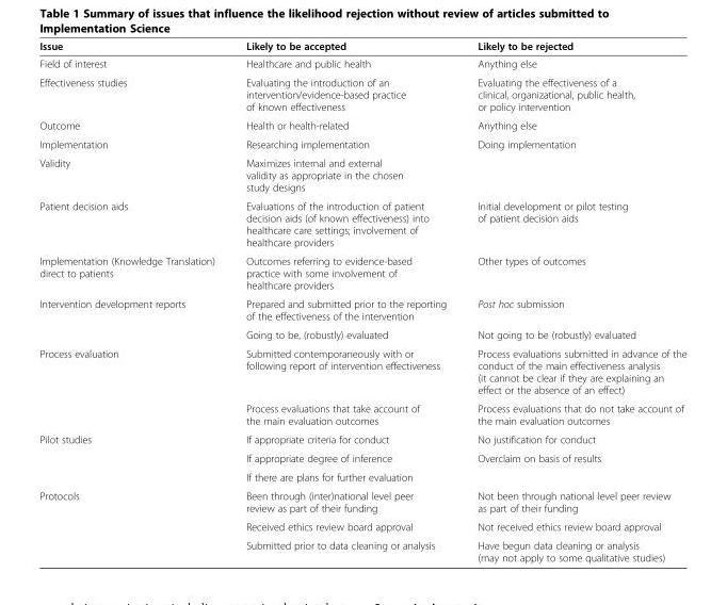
<table><thead><tr><td>Issue</td><td>Likely to be accepted</td><td>Likely to be rejected</td></tr></thead><tbody><tr><td>Field of interest</td><td>Healthcare and public health</td><td>Anything else</td></tr><tr><td>Effectiveness studies</td><td>Evaluating the introduction of an intervention/evidence-based practice of known effectiveness</td><td>Evaluating the effectiveness of a clinical, organizational, public health, or policy intervention</td></tr><tr><td>Outcome</td><td>Health or health-related</td><td>Anything else</td></tr><tr><td>Implementation</td><td>Researching implementation</td><td>Doing implementation</td></tr><tr><td>Validity</td><td>Maximizes internal and external validity as appropriate in the chosen study designs</td><td></td></tr><tr><td>Patient decision aids</td><td>Evaluations of the introduction of patient decision aids (of known effectiveness) into healthcare care settings; involvement of healthcare providers</td><td>Initial development or pilot testing of patient decision aids</td></tr><tr><td>Implementation (Knowledge Translation) direct to patients</td><td>Outcomes referring to evidence-based practice with some involvement of healthcare providers</td><td>Other types of outcomes</td></tr><tr><td rowspan="2">Intervention development reports</td><td>Prepared and submitted prior to the reporting of the effectiveness of the intervention</td><td>Post hoc submission</td></tr><tr><td>Going to be, (robustly) evaluated</td><td>Not going to be (robustly) evaluated</td></tr><tr><td rowspan="2">Process evaluation</td><td>Submitted contemporaneously with or following report of intervention effectiveness</td><td>Process evaluations submitted in advance of the conduct of the main effectiveness analysis (it cannot be clear if they are explaining an effect or the absence of an effect)</td></tr><tr><td>Process evaluations that take account of the main evaluation outcomes</td><td>Process evaluations that do not take account of the main evaluation outcomes</td></tr><tr><td rowspan="3">Pilot studies</td><td>If appropriate criteria for conduct</td><td>No justification for conduct</td></tr><tr><td>If appropriate degree of inference</td><td>Overclaim on basis of results</td></tr><tr><td>If there are plans for further evaluation</td><td></td></tr><tr><td rowspan="3">Protocols</td><td>Been through (inter)national level peer review as part of their funding</td><td>Not been through national level peer review as part of their funding</td></tr><tr><td>Received ethics review board approval</td><td>Not received ethics review board approval</td></tr><tr><td>Submitted prior to data cleaning or analysis</td><td>Have begun data cleaning or analysis (may not apply to some qualitative studies)</td></tr></tbody></table>